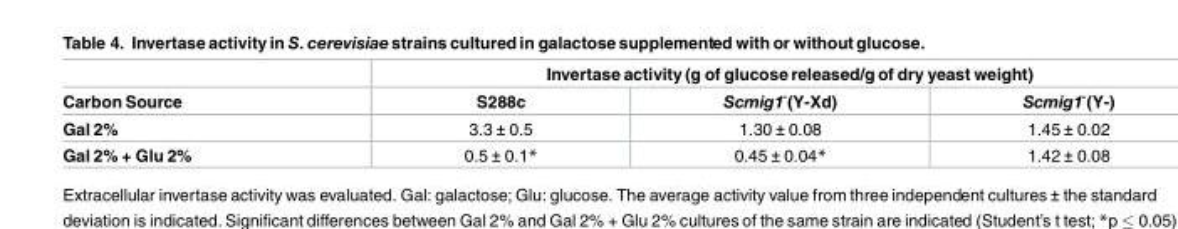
<table><thead><tr><td rowspan="2">Carbon Source</td><td colspan="3">Invertase activity (g of glucose released/g of dry yeast weight)</td></tr><tr><td>S288c</td><td>Scmig1<sup>-</sup>(Y-Xd)</td><td>Scmig1<sup>-</sup>(Y-)</td></tr></thead><tbody><tr><td>Gal 2%</td><td>3.3 ± 0.5</td><td>1.30 ± 0.08</td><td>1.45 ± 0.02</td></tr><tr><td>Gal 2% + Glu 2%</td><td>0.5 ± 0.1*</td><td>0.45 ± 0.04*</td><td>1.42 ± 0.08</td></tr></tbody></table>